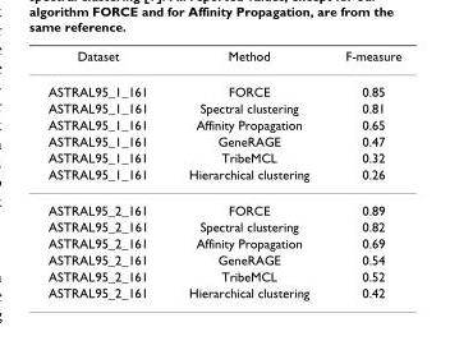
<table><thead><tr><td>Dataset</td><td>Method</td><td>F-measure</td></tr></thead><tbody><tr><td>ASTRAL95_1_161</td><td>FORCE</td><td>0.85</td></tr><tr><td>ASTRAL95_1_161</td><td>Spectral clustering</td><td>0.81</td></tr><tr><td>ASTRAL95_1_161</td><td>Affinity Propagation</td><td>0.65</td></tr><tr><td>ASTRAL95_1_161</td><td>GeneRAGE</td><td>0.47</td></tr><tr><td>ASTRAL95_1_161</td><td>TribeMCL</td><td>0.32</td></tr><tr><td>ASTRAL95_1_161</td><td>Hierarchical clustering</td><td>0.26</td></tr><tr><td>ASTRAL95_2_161</td><td>FORCE</td><td>0.89</td></tr><tr><td>ASTRAL95_2_161</td><td>Spectral clustering</td><td>0.82</td></tr><tr><td>ASTRAL95_2_161</td><td>Affinity Propagation</td><td>0.69</td></tr><tr><td>ASTRAL95_2_161</td><td>GeneRAGE</td><td>0.54</td></tr><tr><td>ASTRAL95_2_161</td><td>TribeMCL</td><td>0.52</td></tr><tr><td>ASTRAL95_2_161</td><td>Hierarchical clustering</td><td>0.42</td></tr></tbody></table>